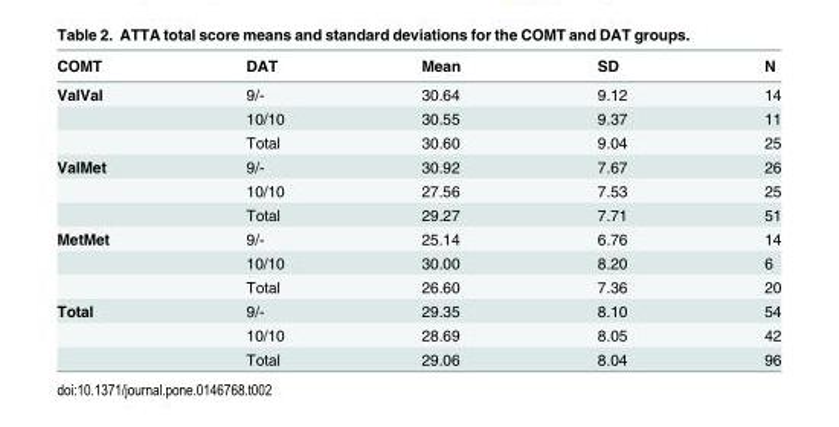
<table><thead><tr><td>COMT</td><td>DAT</td><td>Mean</td><td>SD</td><td>N</td></tr></thead><tbody><tr><td rowspan="3">ValVal</td><td>9/-</td><td>30.64</td><td>9.12</td><td>14</td></tr><tr><td>10/10</td><td>30.55</td><td>9.37</td><td>11</td></tr><tr><td>Total</td><td>30.60</td><td>9.04</td><td>25</td></tr><tr><td rowspan="3">ValMet</td><td>9/-</td><td>30.92</td><td>7.67</td><td>26</td></tr><tr><td>10/10</td><td>27.56</td><td>7.53</td><td>25</td></tr><tr><td>Total</td><td>29.27</td><td>7.71</td><td>51</td></tr><tr><td rowspan="3">MetMet</td><td>9/-</td><td>25.14</td><td>6.76</td><td>14</td></tr><tr><td>10/10</td><td>30.00</td><td>8.20</td><td>6</td></tr><tr><td>Total</td><td>26.60</td><td>7.36</td><td>20</td></tr><tr><td rowspan="3">Total</td><td>9/-</td><td>29.35</td><td>8.10</td><td>54</td></tr><tr><td>10/10</td><td>28.69</td><td>8.05</td><td>42</td></tr><tr><td>Total</td><td>29.06</td><td>8.04</td><td>96</td></tr></tbody></table>